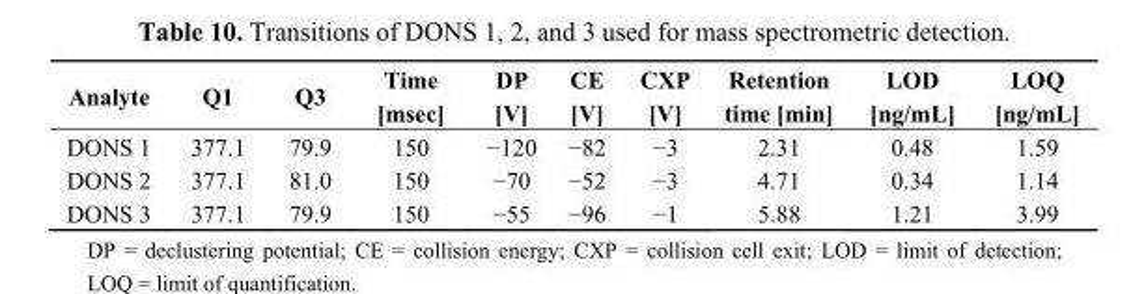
<table><thead><tr><td>Analyte</td><td>Q1</td><td>Q3</td><td>Time [msec]</td><td>DP [V]</td><td>CE [V]</td><td>CXP [V]</td><td>Retention time [min]</td><td>LOD [ng/mL]</td><td>LOQ [ng/mL]</td></tr></thead><tbody><tr><td>DONS 1</td><td>377.1</td><td>79.9</td><td>150</td><td>−120</td><td>−82</td><td>−3</td><td>2.31</td><td>0.48</td><td>1.59</td></tr><tr><td>DONS 2</td><td>377.1</td><td>81.0</td><td>150</td><td>−70</td><td>−52</td><td>−3</td><td>4.71</td><td>0.34</td><td>1.14</td></tr><tr><td>DONS 3</td><td>377.1</td><td>79.9</td><td>150</td><td>−55</td><td>−96</td><td>−1</td><td>5.88</td><td>1.21</td><td>3.99</td></tr></tbody></table>